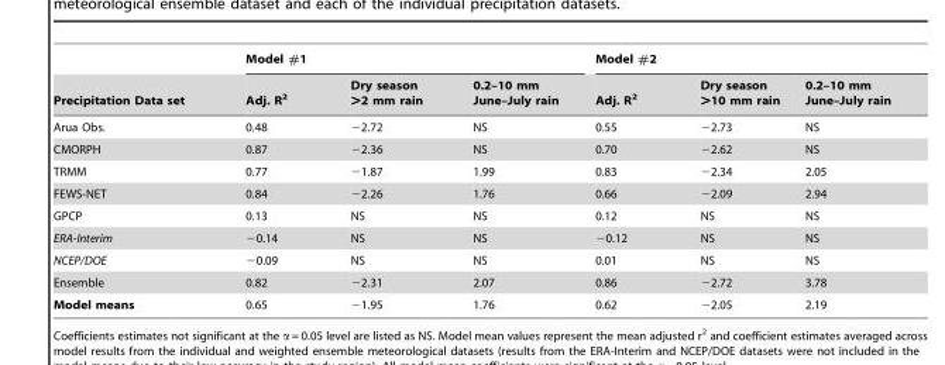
<table><thead><tr><td rowspan="2">Precipitation Data set</td><td colspan="3">Model #1</td><td colspan="3">Model #2</td></tr><tr><td>Adj. R<sup>2</sup></td><td>Dry season &gt;2 mm rain</td><td>0.2–10 mm June–July rain</td><td>Adj. R<sup>2</sup></td><td>Dry season &gt;10 mm rain</td><td>0.2–10 mm June–July rain</td></tr></thead><tbody><tr><td>Arua Obs.</td><td>0.48</td><td>−2.72</td><td>NS</td><td>0.55</td><td>−2.73</td><td>NS</td></tr><tr><td>CMORPH</td><td>0.87</td><td>−2.36</td><td>NS</td><td>0.70</td><td>−2.62</td><td>NS</td></tr><tr><td>TRMM</td><td>0.77</td><td>−1.87</td><td>1.99</td><td>0.83</td><td>−2.34</td><td>2.05</td></tr><tr><td>FEWS-NET</td><td>0.84</td><td>−2.26</td><td>1.76</td><td>0.66</td><td>−2.09</td><td>2.94</td></tr><tr><td>GPCP</td><td>0.13</td><td>NS</td><td>NS</td><td>0.12</td><td>NS</td><td>NS</td></tr><tr><td>ERA-Interim</td><td>−0.14</td><td>NS</td><td>NS</td><td>−0.12</td><td>NS</td><td>NS</td></tr><tr><td>NCEP/DOE</td><td>−0.09</td><td>NS</td><td>NS</td><td>0.01</td><td>NS</td><td>NS</td></tr><tr><td>Ensemble</td><td>0.82</td><td>−2.31</td><td>2.07</td><td>0.86</td><td>−2.72</td><td>3.78</td></tr><tr><td>Model means</td><td>0.65</td><td>−1.95</td><td>1.76</td><td>0.62</td><td>−2.05</td><td>2.19</td></tr></tbody></table>